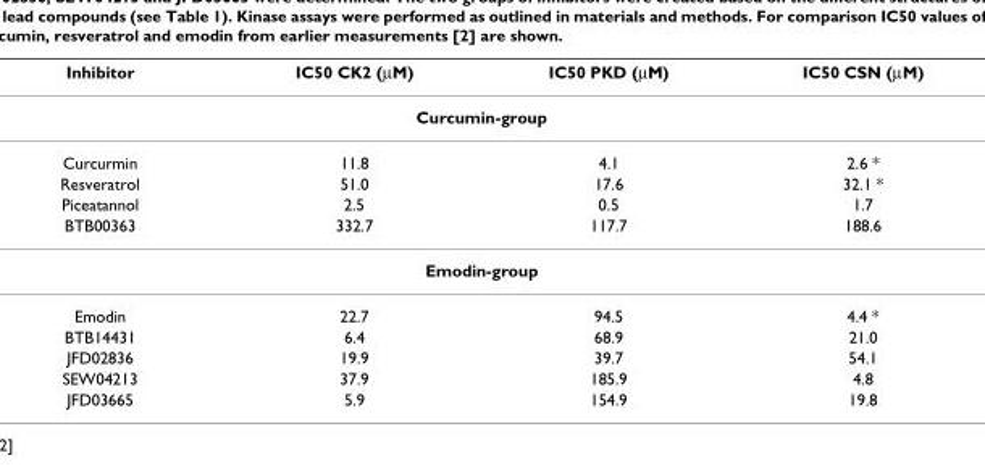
<table><thead><tr><td>Inhibitor</td><td>IC50 CK2 (µM)</td><td>IC50 PKD (µM)</td><td>IC50 CSN (µM)</td></tr></thead><tbody><tr><td colspan="4">Curcumin-group</td></tr><tr><td>Curcurmin</td><td>11.8</td><td>4.1</td><td>2.6 *</td></tr><tr><td>Resveratrol</td><td>51.0</td><td>17.6</td><td>32.1 *</td></tr><tr><td>Piceatannol</td><td>2.5</td><td>0.5</td><td>1.7</td></tr><tr><td>BTB00363</td><td>332.7</td><td>117.7</td><td>188.6</td></tr><tr><td colspan="4">Emodin-group</td></tr><tr><td>Emodin</td><td>22.7</td><td>94.5</td><td>4.4 *</td></tr><tr><td>BTB14431</td><td>6.4</td><td>68.9</td><td>21.0</td></tr><tr><td>JFD02836</td><td>19.9</td><td>39.7</td><td>54.1</td></tr><tr><td>SEW04213</td><td>37.9</td><td>185.9</td><td>4.8</td></tr><tr><td>JFD03665</td><td>5.9</td><td>154.9</td><td>19.8</td></tr></tbody></table>